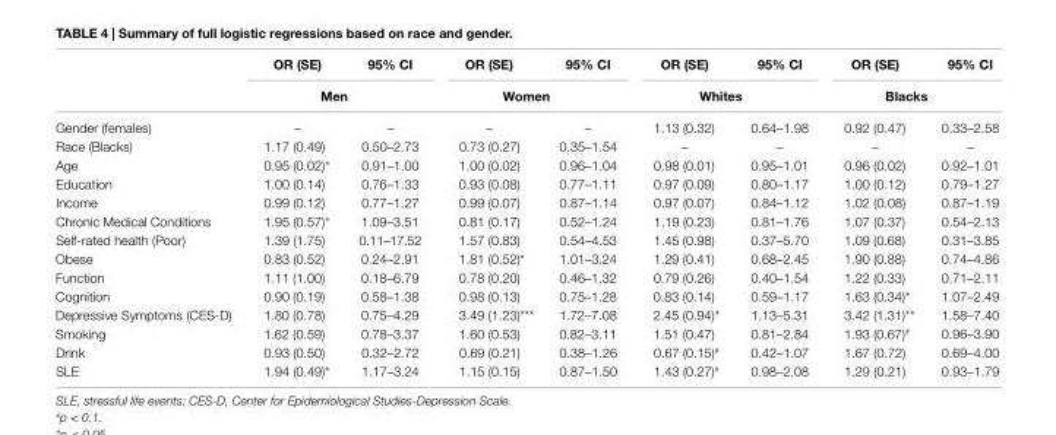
<table><thead><tr><td rowspan="2"></td><td>Or (se)</td><td>95% ci</td><td>Or (se)</td><td>95% ci</td><td>Or (se)</td><td>95% ci</td><td>Or (se)</td><td>95% ci</td></tr><tr><td colspan="2">Men</td><td colspan="2">Women</td><td colspan="2">Whites</td><td colspan="2">Blacks</td></tr></thead><tbody><tr><td>Gender (females)</td><td>–</td><td>–</td><td>–</td><td>–</td><td>1.13 (0.32)</td><td>0.64–1.98</td><td>0.92 (0.47)</td><td>0.33–2.58</td></tr><tr><td>Race (Blacks)</td><td>1.17 (0.49)</td><td>0.50–2.73</td><td>0.73 (0.27)</td><td>0.35–1.54</td><td>–</td><td>–</td><td>–</td><td>–</td></tr><tr><td>Age</td><td>0.95 (0.02)*</td><td>0.91–1.00</td><td>1.00 (0.02)</td><td>0.96–1.04</td><td>0.98 (0.01)</td><td>0.95–1.01</td><td>0.96 (0.02)</td><td>0.92–1.01</td></tr><tr><td>Education</td><td>1.00 (0.14)</td><td>0.76–1.33</td><td>0.93 (0.08)</td><td>0.77–1.11</td><td>0.97 (0.09)</td><td>0.80–1.17</td><td>1.00 (0.12)</td><td>0.79–1.27</td></tr><tr><td>Income</td><td>0.99 (0.12)</td><td>0.77–1.27</td><td>0.99 (0.07)</td><td>0.87–1.14</td><td>0.97 (0.07)</td><td>0.84–1.12</td><td>1.02 (0.08)</td><td>0.87–1.19</td></tr><tr><td>Chronic Medical Conditions</td><td>1.95 (0.57)*</td><td>1.09–3.51</td><td>0.81 (0.17)</td><td>0.52–1.24</td><td>1.19 (0.23)</td><td>0.81–1.76</td><td>1.07 (0.37)</td><td>0.54–2.13</td></tr><tr><td>Self-rated health (Poor)</td><td>1.39 (1.75)</td><td>0.11–17.52</td><td>1.57 (0.83)</td><td>0.54–4.53</td><td>1.45 (0.98)</td><td>0.37–5.70</td><td>1.09 (0.68)</td><td>0.31–3.85</td></tr><tr><td>Obese</td><td>0.83 (0.52)</td><td>0.24–2.91</td><td>1.81 (0.52)*</td><td>1.01–3.24</td><td>1.29 (0.41)</td><td>0.68–2.45</td><td>1.90 (0.88)</td><td>0.74–4.86</td></tr><tr><td>Function</td><td>1.11 (1.00)</td><td>0.18–6.79</td><td>0.78 (0.20)</td><td>0.46–1.32</td><td>0.79 (0.26)</td><td>0.40–1.54</td><td>1.22 (0.33)</td><td>0.71–2.11</td></tr><tr><td>Cognition</td><td>0.90 (0.19)</td><td>0.58–1.38</td><td>0.98 (0.13)</td><td>0.75–1.28</td><td>0.83 (0.14)</td><td>0.59–1.17</td><td>1.63 (0.34)*</td><td>1.07–2.49</td></tr><tr><td>Depressive Symptoms (CES-D)</td><td>1.80 (0.78)</td><td>0.75–4.29</td><td>3.49 (1.23)***</td><td>1.72–7.08</td><td>2.45 (0.94)*</td><td>1.13–5.31</td><td>3.42 (1.31)**</td><td>1.58–7.40</td></tr><tr><td>Smoking</td><td>1.62 (0.59)</td><td>0.78–3.37</td><td>1.60 (0.53)</td><td>0.82–3.11</td><td>1.51 (0.47)</td><td>0.81–2.84</td><td>1.93 (0.67)<sup>#</sup></td><td>0.96–3.90</td></tr><tr><td>Drink</td><td>0.93 (0.50)</td><td>0.32–2.72</td><td>0.69 (0.21)</td><td>0.38–1.26</td><td>0.67 (0.15)<sup>#</sup></td><td>0.42–1.07</td><td>1.67 (0.72)</td><td>0.69–4.00</td></tr><tr><td>SLE</td><td>1.94 (0.49)*</td><td>1.17–3.24</td><td>1.15 (0.15)</td><td>0.87–1.50</td><td>1.43 (0.27)<sup>#</sup></td><td>0.98–2.08</td><td>1.29 (0.21)</td><td>0.93–1.79</td></tr></tbody></table>